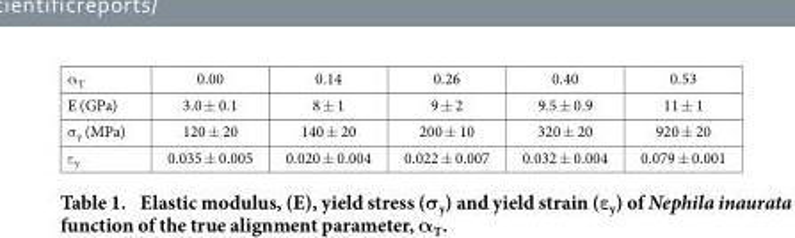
<table><tbody><tr><td>α <sub>T</sub></td><td>0.00</td><td>0.14</td><td>0.26</td><td>0.40</td><td>0.53</td></tr><tr><td>E (GPa)</td><td>3.0 ± 0.1</td><td>8 ± 1</td><td>9 ± 2</td><td>9.5 ± 0.9</td><td>11 ± 1</td></tr><tr><td>σ <sub>y</sub> (MPa)</td><td>120 ± 20</td><td>140 ± 20</td><td>200 ± 10</td><td>320 ± 20</td><td>920 ± 20</td></tr><tr><td>ε <sub>y</sub></td><td>0.035 ± 0.005</td><td>0.020 ± 0.004</td><td>0.022 ± 0.007</td><td>0.032 ± 0.004</td><td>0.079 ± 0.001</td></tr></tbody></table>